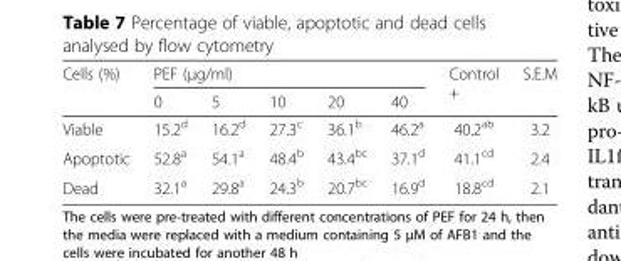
<table><thead><tr><td rowspan="2">Cells (%)</td><td colspan="5">PEF (μg/ml)</td><td rowspan="2">Control +</td><td rowspan="2">S.E.M</td></tr><tr><td>0</td><td>5</td><td>10</td><td>20</td><td>40</td></tr></thead><tbody><tr><td>Viable</td><td>15.2<sup>d</sup></td><td>16.2<sup>d</sup></td><td>27.3<sup>c</sup></td><td>36.1<sup>b</sup></td><td>46.2<sup>a</sup></td><td>40.2<sup>ab</sup></td><td>3.2</td></tr><tr><td>Apoptotic</td><td>52.8<sup>a</sup></td><td>54.1<sup>a</sup></td><td>48.4<sup>b</sup></td><td>43.4<sup>bc</sup></td><td>37.1<sup>d</sup></td><td>41.1<sup>cd</sup></td><td>2.4</td></tr><tr><td>Dead</td><td>32.1<sup>a</sup></td><td>29.8<sup>a</sup></td><td>24.3<sup>b</sup></td><td>20.7<sup>bc</sup></td><td>16.9<sup>d</sup></td><td>18.8<sup>cd</sup></td><td>2.1</td></tr></tbody></table>